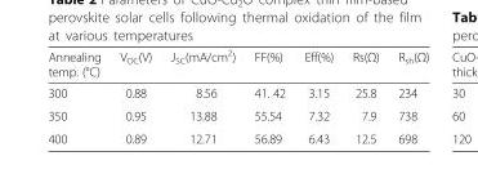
<table><thead><tr><td>Annealing temp. (°C)</td><td>V<sub>OC</sub>(V)</td><td>J<sub>SC</sub>(mA/cm<sup>2</sup>)</td><td>FF(%)</td><td>Eff(%)</td><td>Rs(Ω)</td><td>R<sub>sh</sub>(Ω)</td></tr></thead><tbody><tr><td>300</td><td>0.88</td><td>8.56</td><td>41. 42</td><td>3.15</td><td>25.8</td><td>234</td></tr><tr><td>350</td><td>0.95</td><td>13.88</td><td>55.54</td><td>7.32</td><td>7.9</td><td>738</td></tr><tr><td>400</td><td>0.89</td><td>12.71</td><td>56.89</td><td>6.43</td><td>12.5</td><td>698</td></tr></tbody></table>